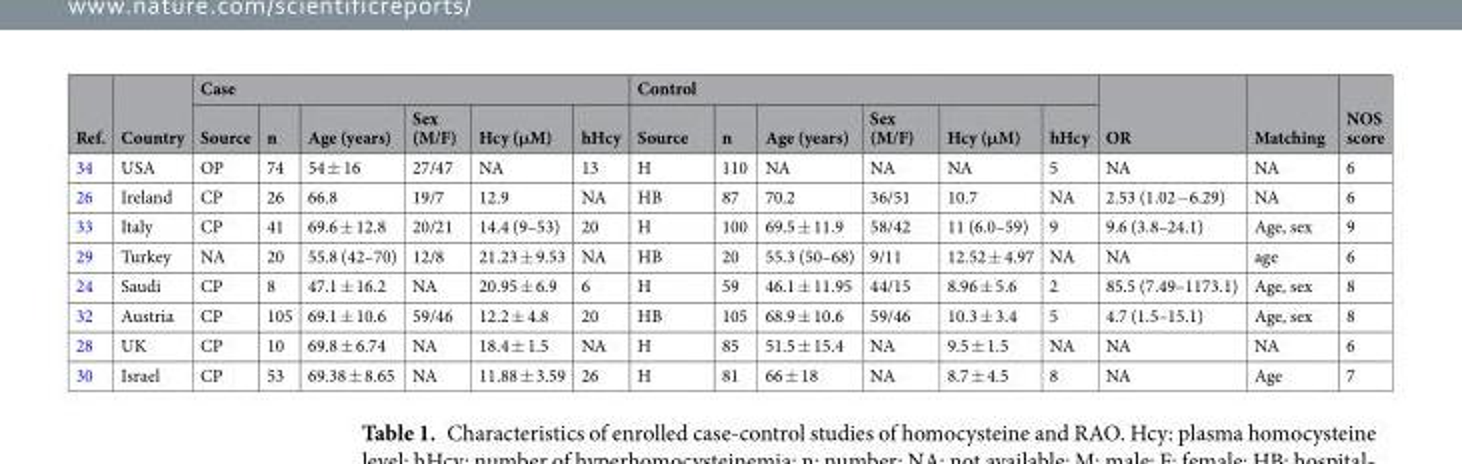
<table><thead><tr><td rowspan="2">Ref.</td><td rowspan="2">Country</td><td colspan="6">Case</td><td colspan="6">Control</td><td rowspan="2">OR</td><td rowspan="2">Matching</td><td rowspan="2">NOS score</td></tr><tr><td>Source</td><td>n</td><td>Age (years)</td><td>Sex (M/F)</td><td>Hcy (μM)</td><td>hHcy</td><td>Source</td><td>n</td><td>Age (years)</td><td>Sex (M/F)</td><td>Hcy (μM)</td><td>hHcy</td></tr></thead><tbody><tr><td>34</td><td>USA</td><td>OP</td><td>74</td><td>54 ± 16</td><td>27/47</td><td>NA</td><td>13</td><td>H</td><td>110</td><td>NA</td><td>NA</td><td>NA</td><td>5</td><td>NA</td><td>NA</td><td>6</td></tr><tr><td>26</td><td>Ireland</td><td>CP</td><td>26</td><td>66.8</td><td>19/7</td><td>12.9</td><td>NA</td><td>HB</td><td>87</td><td>70.2</td><td>36/51</td><td>10.7</td><td>NA</td><td>2.53 (1.02−6.29)</td><td>NA</td><td>6</td></tr><tr><td>33</td><td>Italy</td><td>CP</td><td>41</td><td>69.6 ± 12.8</td><td>20/21</td><td>14.4 (9–53)</td><td>20</td><td>H</td><td>100</td><td>69.5 ± 11.9</td><td>58/42</td><td>11 (6.0–59)</td><td>9</td><td>9.6 (3.8–24.1)</td><td>Age, sex</td><td>9</td></tr><tr><td>29</td><td>Turkey</td><td>NA</td><td>20</td><td>55.8 (42–70)</td><td>12/8</td><td>21.23 ± 9.53</td><td>NA</td><td>HB</td><td>20</td><td>55.3 (50–68)</td><td>9/11</td><td>12.52 ± 4.97</td><td>NA</td><td>NA</td><td>age</td><td>6</td></tr><tr><td>24</td><td>Saudi</td><td>CP</td><td>8</td><td>47.1 ± 16.2</td><td>NA</td><td>20.95 ± 6.9</td><td>6</td><td>H</td><td>59</td><td>46.1 ± 11.95</td><td>44/15</td><td>8.96 ± 5.6</td><td>2</td><td>85.5 (7.49–1173.1)</td><td>Age, sex</td><td>8</td></tr><tr><td>32</td><td>Austria</td><td>CP</td><td>105</td><td>69.1 ± 10.6</td><td>59/46</td><td>12.2 ± 4.8</td><td>20</td><td>HB</td><td>105</td><td>68.9 ± 10.6</td><td>59/46</td><td>10.3 ± 3.4</td><td>5</td><td>4.7 (1.5–15.1)</td><td>Age, sex</td><td>8</td></tr><tr><td>28</td><td>UK</td><td>CP</td><td>10</td><td>69.8 ± 6.74</td><td>NA</td><td>18.4 ± 1.5</td><td>NA</td><td>H</td><td>85</td><td>51.5 ± 15.4</td><td>NA</td><td>9.5 ± 1.5</td><td>NA</td><td>NA</td><td>NA</td><td>6</td></tr><tr><td>30</td><td>Israel</td><td>CP</td><td>53</td><td>69.38 ± 8.65</td><td>NA</td><td>11.88 ± 3.59</td><td>26</td><td>H</td><td>81</td><td>66 ± 18</td><td>NA</td><td>8.7 ± 4.5</td><td>8</td><td>NA</td><td>Age</td><td>7</td></tr></tbody></table>